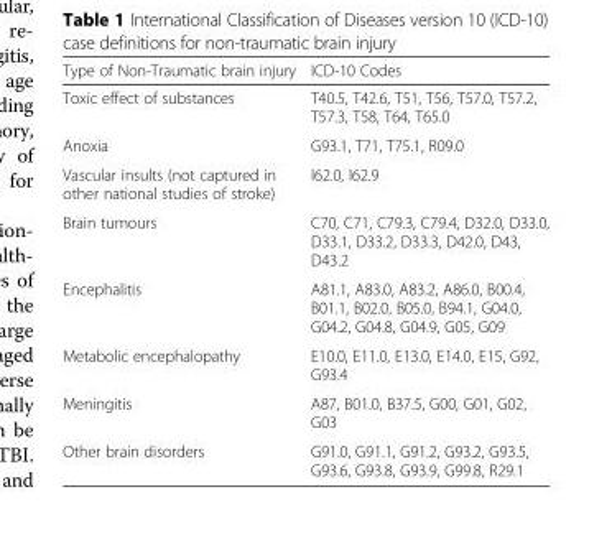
<table><thead><tr><td>Type of Non-Traumatic brain injury</td><td>ICD-10 Codes</td></tr></thead><tbody><tr><td>Toxic effect of substances</td><td>T40.5, T42.6, T51, T56, T57.0, T57.2, T57.3, T58, T64, T65.0</td></tr><tr><td>Anoxia</td><td>G93.1, T71, T75.1, R09.0</td></tr><tr><td>Vascular insults (not captured in other national studies of stroke)</td><td>I62.0, I62.9</td></tr><tr><td>Brain tumours</td><td>C70, C71, C79.3, C79.4, D32.0, D33.0, D33.1, D33.2, D33.3, D42.0, D43, D43.2</td></tr><tr><td>Encephalitis</td><td>A81.1, A83.0, A83.2, A86.0, B00.4, B01.1, B02.0, B05.0, B94.1, G04.0, G04.2, G04.8, G04.9, G05, G09</td></tr><tr><td>Metabolic encephalopathy</td><td>E10.0, E11.0, E13.0, E14.0, E15, G92, G93.4</td></tr><tr><td>Meningitis</td><td>A87, B01.0, B37.5, G00, G01, G02, G03</td></tr><tr><td>Other brain disorders</td><td>G91.0, G91.1, G91.2, G93.2, G93.5, G93.6, G93.8, G93.9, G99.8, R29.1</td></tr></tbody></table>